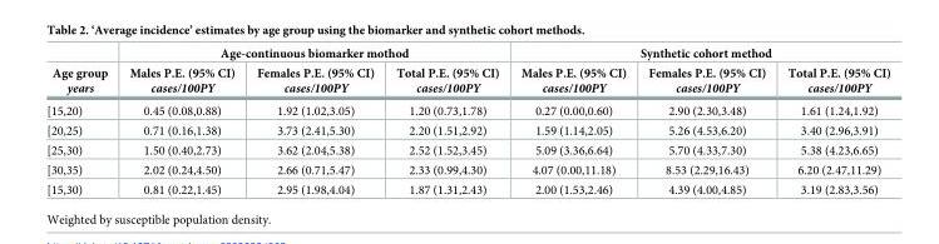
<table><thead><tr><td rowspan="2">Age group years</td><td colspan="3">Age-continuous biomarker mothod</td><td colspan="3">Synthetic cohort method</td></tr><tr><td>Males P.E. (95% CI) cases/100PY</td><td>Females P.E. (95% CI) cases/100PY</td><td>Total P.E. (95% CI) cases/100PY</td><td>Males P.E. (95% CI) cases/100PY</td><td>Females P.E. (95% CI) cases/100PY</td><td>Total P.E. (95% CI) cases/100PY</td></tr></thead><tbody><tr><td>[15,20)</td><td>0.45 (0.08,0.88)</td><td>1.92 (1.02,3.05)</td><td>1.20 (0.73,1.78)</td><td>0.27 (0.00,0.60)</td><td>2.90 (2.30,3.48)</td><td>1.61 (1.24,1.92)</td></tr><tr><td>[20,25)</td><td>0.71 (0.16,1.38)</td><td>3.73 (2.41,5.30)</td><td>2.20 (1.51,2.92)</td><td>1.59 (1.14,2.05)</td><td>5.26 (4.53,6.20)</td><td>3.40 (2.96,3.91)</td></tr><tr><td>[25,30)</td><td>1.50 (0.40,2.73)</td><td>3.62 (2.04,5.38)</td><td>2.52 (1.52,3.45)</td><td>5.09 (3.36,6.64)</td><td>5.70 (4.33,7.30)</td><td>5.38 (4.23,6.65)</td></tr><tr><td>[30,35)</td><td>2.02 (0.24,4.50)</td><td>2.66 (0.71,5.47)</td><td>2.33 (0.99,4.30)</td><td>4.07 (0.00,11.18)</td><td>8.53 (2.29,16.43)</td><td>6.20 (2.47,11.29)</td></tr><tr><td>[15,30)</td><td>0.81 (0.22,1.45)</td><td>2.95 (1.98,4.04)</td><td>1.87 (1.31,2.43)</td><td>2.00 (1.53,2.46)</td><td>4.39 (4.00,4.85)</td><td>3.19 (2.83,3.56)</td></tr></tbody></table>